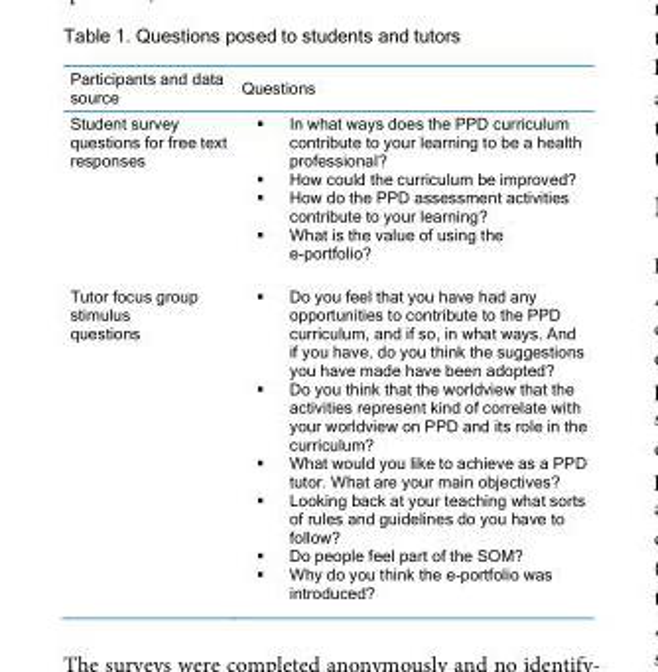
<table><thead><tr><td>Participants and data source</td><td>Questions</td></tr></thead><tbody><tr><td rowspan="4">Student survey questions for free text responses</td><td>§ In what ways does the PPD curriculum contribute to your learning to be a health professional?</td></tr><tr><td>§ How could the curriculum be improved?</td></tr><tr><td>§ How do the PPD assessment activities contribute to your learning?</td></tr><tr><td>§ What is the value of using the e-portfolio?</td></tr><tr><td rowspan="6">Tutor focus group stimulus questions</td><td>§ Do you feel that you have had any opportunities to contribute to the PPD curriculum, and if so, in what ways. And if you have, do you think the suggestions you have made have been adopted?</td></tr><tr><td>§ Do you think that the worldview that the activities represent kind of correlate with your worldview on PPD and its role in the curriculum?</td></tr><tr><td>§ What would you like to achieve as a PPD tutor. What are your main objectives?</td></tr><tr><td>§ Looking back at your teaching what sorts of rules and guidelines do you have to follow?</td></tr><tr><td>§ Do people feel part of the SOM?</td></tr><tr><td>§ Why do you think the e-portfolio was introduced?</td></tr></tbody></table>